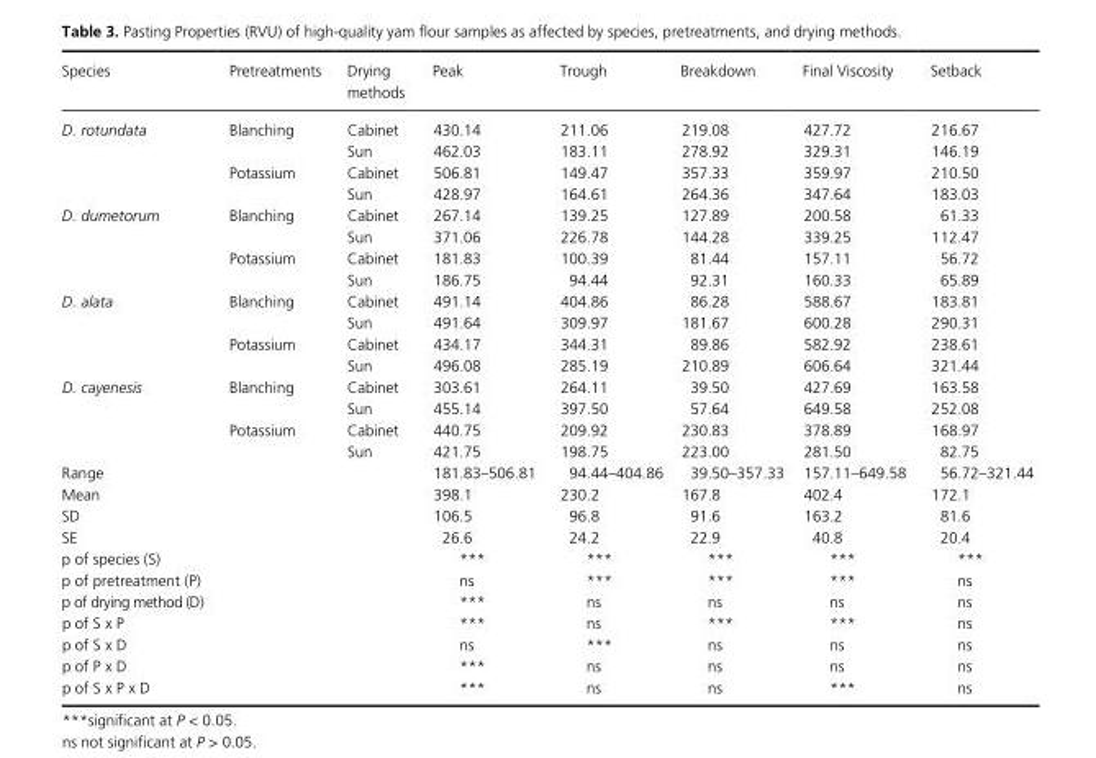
<table><thead><tr><td>Species</td><td>Pretreatments</td><td>Drying methods</td><td>Peak</td><td>Trough</td><td>Breakdown</td><td>Final Viscosity</td><td>Setback</td></tr></thead><tbody><tr><td rowspan="4">D. rotundata</td><td rowspan="2">Blanching</td><td>Cabinet</td><td>430.14</td><td>211.06</td><td>219.08</td><td>427.72</td><td>216.67</td></tr><tr><td>Sun</td><td>462.03</td><td>183.11</td><td>278.92</td><td>329.31</td><td>146.19</td></tr><tr><td rowspan="2">Potassium</td><td>Cabinet</td><td>506.81</td><td>149.47</td><td>357.33</td><td>359.97</td><td>210.50</td></tr><tr><td>Sun</td><td>428.97</td><td>164.61</td><td>264.36</td><td>347.64</td><td>183.03</td></tr><tr><td rowspan="4">D. dumetorum</td><td rowspan="2">Blanching</td><td>Cabinet</td><td>267.14</td><td>139.25</td><td>127.89</td><td>200.58</td><td>61.33</td></tr><tr><td>Sun</td><td>371.06</td><td>226.78</td><td>144.28</td><td>339.25</td><td>112.47</td></tr><tr><td rowspan="2">Potassium</td><td>Cabinet</td><td>181.83</td><td>100.39</td><td>81.44</td><td>157.11</td><td>56.72</td></tr><tr><td>Sun</td><td>186.75</td><td>94.44</td><td>92.31</td><td>160.33</td><td>65.89</td></tr><tr><td rowspan="4">D. alata</td><td rowspan="2">Blanching</td><td>Cabinet</td><td>491.14</td><td>404.86</td><td>86.28</td><td>588.67</td><td>183.81</td></tr><tr><td>Sun</td><td>491.64</td><td>309.97</td><td>181.67</td><td>600.28</td><td>290.31</td></tr><tr><td rowspan="2">Potassium</td><td>Cabinet</td><td>434.17</td><td>344.31</td><td>89.86</td><td>582.92</td><td>238.61</td></tr><tr><td>Sun</td><td>496.08</td><td>285.19</td><td>210.89</td><td>606.64</td><td>321.44</td></tr><tr><td rowspan="4">D. cayenesis</td><td rowspan="2">Blanching</td><td>Cabinet</td><td>303.61</td><td>264.11</td><td>39.50</td><td>427.69</td><td>163.58</td></tr><tr><td>Sun</td><td>455.14</td><td>397.50</td><td>57.64</td><td>649.58</td><td>252.08</td></tr><tr><td rowspan="2">Potassium</td><td>Cabinet</td><td>440.75</td><td>209.92</td><td>230.83</td><td>378.89</td><td>168.97</td></tr><tr><td>Sun</td><td>421.75</td><td>198.75</td><td>223.00</td><td>281.50</td><td>82.75</td></tr><tr><td>Range</td><td></td><td></td><td>181.83–506.81</td><td>94.44–404.86</td><td>39.50–357.33</td><td>157.11–649.58</td><td>56.72–321.44</td></tr><tr><td>Mean</td><td></td><td></td><td>398.1</td><td>230.2</td><td>167.8</td><td>402.4</td><td>172.1</td></tr><tr><td>SD</td><td></td><td></td><td>106.5</td><td>96.8</td><td>91.6</td><td>163.2</td><td>81.6</td></tr><tr><td>SE</td><td></td><td></td><td>26.6</td><td>24.2</td><td>22.9</td><td>40.8</td><td>20.4</td></tr><tr><td>p of species (S)</td><td></td><td></td><td>***</td><td>***</td><td>***</td><td>***</td><td>***</td></tr><tr><td>p of pretreatment (P)</td><td></td><td></td><td>ns</td><td>***</td><td>***</td><td>***</td><td>ns</td></tr><tr><td>p of drying method (D)</td><td></td><td></td><td>***</td><td>ns</td><td>ns</td><td>ns</td><td>ns</td></tr><tr><td>p of S x P</td><td></td><td></td><td>***</td><td>ns</td><td>***</td><td>***</td><td>ns</td></tr><tr><td>p of S x D</td><td></td><td></td><td>ns</td><td>***</td><td>ns</td><td>ns</td><td>ns</td></tr><tr><td>p of P x D</td><td></td><td></td><td>***</td><td>ns</td><td>ns</td><td>ns</td><td>ns</td></tr><tr><td>p of S x P x D</td><td></td><td></td><td>***</td><td>ns</td><td>ns</td><td>***</td><td>ns</td></tr></tbody></table>